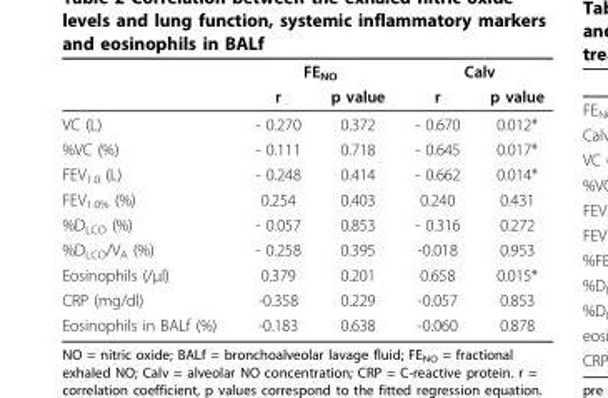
<table><thead><tr><td rowspan="2"></td><td colspan="2">FE<sub>NO</sub></td><td colspan="2">Calv</td></tr><tr><td>r</td><td>p value</td><td>r</td><td>p value</td></tr></thead><tbody><tr><td>VC (L)</td><td>- 0.270</td><td>0.372</td><td>- 0.670</td><td>0.012*</td></tr><tr><td>%VC (%)</td><td>- 0.111</td><td>0.718</td><td>- 0.645</td><td>0.017*</td></tr><tr><td>FEV<sub>1.0</sub> (L)</td><td>- 0.248</td><td>0.414</td><td>- 0.662</td><td>0.014*</td></tr><tr><td>FEV<sub>1.0%</sub> (%)</td><td>0.254</td><td>0.403</td><td>0.240</td><td>0.431</td></tr><tr><td>%D<sub>LCO</sub> (%)</td><td>- 0.057</td><td>0.853</td><td>- 0.316</td><td>0.272</td></tr><tr><td>%D<sub>LCO</sub>/V<sub>A</sub> (%)</td><td>- 0.258</td><td>0.395</td><td>-0.018</td><td>0.953</td></tr><tr><td>Eosinophils (/μl)</td><td>0.379</td><td>0.201</td><td>0.658</td><td>0.015*</td></tr><tr><td>CRP (mg/dl)</td><td>-0.358</td><td>0.229</td><td>-0.057</td><td>0.853</td></tr><tr><td>Eosinophils in BALf (%)</td><td>-0.183</td><td>0.638</td><td>-0.060</td><td>0.878</td></tr></tbody></table>